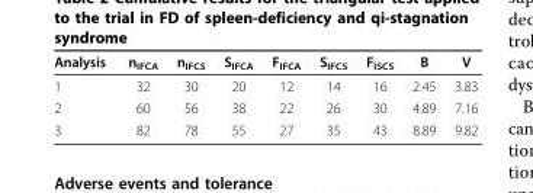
<table><thead><tr><td>Analysis</td><td>n<sub>IFCA</sub></td><td>n<sub>IFCS</sub></td><td>S<sub>IFCA</sub></td><td>F<sub>IFCA</sub></td><td>S<sub>IFCS</sub></td><td>F<sub>ISCS</sub></td><td>B</td><td>V</td></tr></thead><tbody><tr><td>1</td><td>32</td><td>30</td><td>20</td><td>12</td><td>14</td><td>16</td><td>2.45</td><td>3.83</td></tr><tr><td>2</td><td>60</td><td>56</td><td>38</td><td>22</td><td>26</td><td>30</td><td>4.89</td><td>7.16</td></tr><tr><td>3</td><td>82</td><td>78</td><td>55</td><td>27</td><td>35</td><td>43</td><td>8.89</td><td>9.82</td></tr></tbody></table>